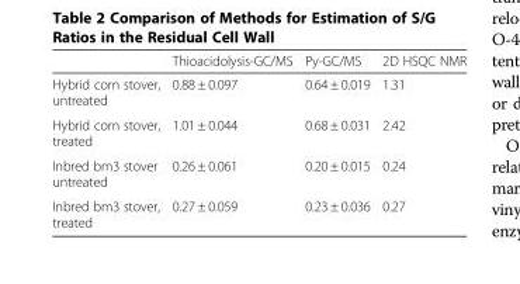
<table><thead><tr><td></td><td>Thioacidolysis-GC/MS</td><td>Py-GC/MS</td><td>2D HSQC NMR</td></tr></thead><tbody><tr><td>Hybrid corn stover, untreated</td><td>0.88 ± 0.097</td><td>0.64 ± 0.019</td><td>1.31</td></tr><tr><td>Hybrid corn stover, treated</td><td>1.01 ± 0.044</td><td>0.68 ± 0.031</td><td>2.42</td></tr><tr><td>Inbred bm3 stover untreated</td><td>0.26 ± 0.061</td><td>0.20 ± 0.015</td><td>0.24</td></tr><tr><td>Inbred bm3 stover, treated</td><td>0.27 ± 0.059</td><td>0.23 ± 0.036</td><td>0.27</td></tr></tbody></table>